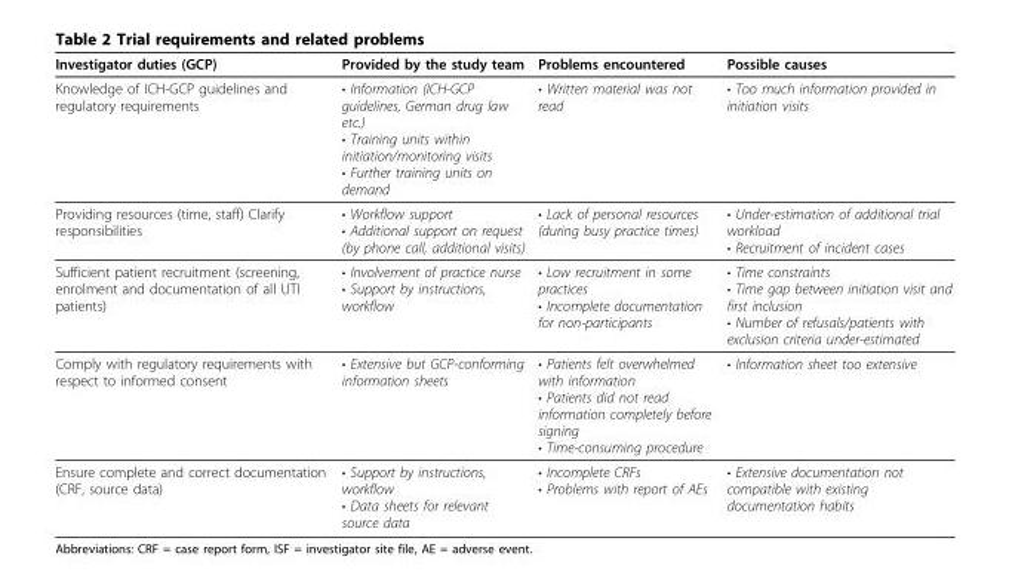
<table><thead><tr><td>Investigator duties (GCP)</td><td>Provided by the study team</td><td>Problems encountered</td><td>Possible causes</td></tr></thead><tbody><tr><td>Knowledge of ICH-GCP guidelines and regulatory requirements</td><td>• Information (ICH-GCP guidelines, German drug law etc.) • Training units within initiation/monitoring visits • Further training units on demand</td><td>• Written material was not read</td><td>• Too much information provided in initiation visits</td></tr><tr><td>Providing resources (time, staff) Clarify responsibilities</td><td>• Workflow support • Additional support on request (by phone call, additional visits)</td><td>• Lack of personal resources (during busy practice times)</td><td>• Under-estimation of additional trial workload • Recruitment of incident cases</td></tr><tr><td>Sufficient patient recruitment (screening, enrolment and documentation of all UTI patients)</td><td>• Involvement of practice nurse • Support by instructions, workflow</td><td>• Low recruitment in some practices • Incomplete documentation for non-participants</td><td>• Time constraints • Time gap between initiation visit and first inclusion • Number of refusals/patients with exclusion criteria under-estimated</td></tr><tr><td>Comply with regulatory requirements with respect to informed consent</td><td>• Extensive but GCP-conforming information sheets</td><td>• Patients felt overwhelmed with information • Patients did not read information completely before signing • Time-consuming procedure</td><td>• Information sheet too extensive</td></tr><tr><td>Ensure complete and correct documentation (CRF, source data)</td><td>• Support by instructions, workflow • Data sheets for relevant source data</td><td>• Incomplete CRFs • Problems with report of AEs</td><td>• Extensive documentation not compatible with existing documentation habits</td></tr></tbody></table>